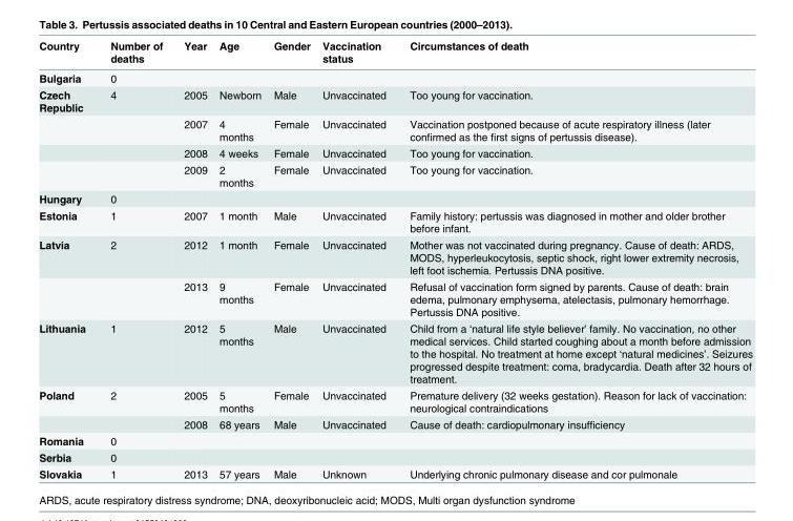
<table><thead><tr><td>Country</td><td>Number of deaths</td><td>Year</td><td>Age</td><td>Gender</td><td>Vaccination status</td><td>Circumstances of death</td></tr></thead><tbody><tr><td>Bulgaria</td><td>0</td><td></td><td></td><td></td><td></td><td></td></tr><tr><td rowspan="4">Czech Republic</td><td>4</td><td>2005</td><td>Newborn</td><td>Male</td><td>Unvaccinated</td><td>Too young for vaccination.</td></tr><tr><td></td><td>2007</td><td>4 months</td><td>Female</td><td>Unvaccinated</td><td>Vaccination postponed because of acute respiratory illness (later confirmed as the first signs of pertussis disease).</td></tr><tr><td></td><td>2008</td><td>4 weeks</td><td>Female</td><td>Unvaccinated</td><td>Too young for vaccination.</td></tr><tr><td></td><td>2009</td><td>2 months</td><td>Female</td><td>Unvaccinated</td><td>Too young for vaccination.</td></tr><tr><td>Hungary</td><td>0</td><td></td><td></td><td></td><td></td><td></td></tr><tr><td>Estonia</td><td>1</td><td>2007</td><td>1 month</td><td>Male</td><td>Unvaccinated</td><td>Family history: pertussis was diagnosed in mother and older brother before infant.</td></tr><tr><td rowspan="2">Latvia</td><td>2</td><td>2012</td><td>1 month</td><td>Female</td><td>Unvaccinated</td><td>Mother was not vaccinated during pregnancy. Cause of death: ARDS, MODS, hyperleukocytosis, septic shock, right lower extremity necrosis, left foot ischemia. Pertussis DNA positive.</td></tr><tr><td></td><td>2013</td><td>9 months</td><td>Female</td><td>Unvaccinated</td><td>Refusal of vaccination form signed by parents. Cause of death: brain edema, pulmonary emphysema, atelectasis, pulmonary hemorrhage. Pertussis DNA positive.</td></tr><tr><td>Lithuania</td><td>1</td><td>2012</td><td>5 months</td><td>Male</td><td>Unvaccinated</td><td>Child from a ‘natural life style believer’ family. No vaccination, no other medical services. Child started coughing about a month before admission to the hospital. No treatment at home except ‘natural medicines’. Seizures progressed despite treatment: coma, bradycardia. Death after 32 hours of treatment.</td></tr><tr><td rowspan="2">Poland</td><td>2</td><td>2005</td><td>5 months</td><td>Female</td><td>Unvaccinated</td><td>Premature delivery (32 weeks gestation). Reason for lack of vaccination: neurological contraindications</td></tr><tr><td></td><td>2008</td><td>68 years</td><td>Male</td><td>Unvaccinated</td><td>Cause of death: cardiopulmonary insufficiency</td></tr><tr><td>Romania</td><td>0</td><td></td><td></td><td></td><td></td><td></td></tr><tr><td>Serbia</td><td>0</td><td></td><td></td><td></td><td></td><td></td></tr><tr><td>Slovakia</td><td>1</td><td>2013</td><td>57 years</td><td>Male</td><td>Unknown</td><td>Underlying chronic pulmonary disease and cor pulmonale</td></tr></tbody></table>